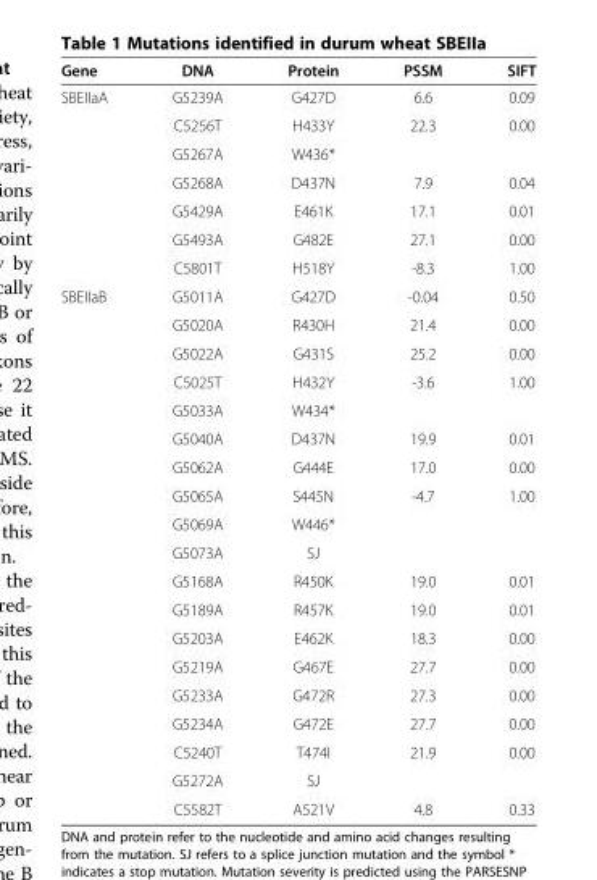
<table><thead><tr><td>Gene</td><td>DNA</td><td>Protein</td><td>PSSM</td><td>SIFT</td></tr></thead><tbody><tr><td rowspan="7">SBEIIaA</td><td>G5239A</td><td>G427D</td><td>6.6</td><td>0.09</td></tr><tr><td>C5256T</td><td>H433Y</td><td>22.3</td><td>0.00</td></tr><tr><td>G5267A</td><td>W436*</td><td></td><td></td></tr><tr><td>G5268A</td><td>D437N</td><td>7.9</td><td>0.04</td></tr><tr><td>G5429A</td><td>E461K</td><td>17.1</td><td>0.01</td></tr><tr><td>G5493A</td><td>G482E</td><td>27.1</td><td>0.00</td></tr><tr><td>C5801T</td><td>H518Y</td><td>-8.3</td><td>1.00</td></tr><tr><td rowspan="19">SBEIIaB</td><td>G5011A</td><td>G427D</td><td>-0.04</td><td>0.50</td></tr><tr><td>G5020A</td><td>R430H</td><td>21.4</td><td>0.00</td></tr><tr><td>G5022A</td><td>G431S</td><td>25.2</td><td>0.00</td></tr><tr><td>C5025T</td><td>H432Y</td><td>-3.6</td><td>1.00</td></tr><tr><td>G5033A</td><td>W434*</td><td></td><td></td></tr><tr><td>G5040A</td><td>D437N</td><td>19.9</td><td>0.01</td></tr><tr><td>G5062A</td><td>G444E</td><td>17.0</td><td>0.00</td></tr><tr><td>G5065A</td><td>S445N</td><td>-4.7</td><td>1.00</td></tr><tr><td>G5069A</td><td>W446*</td><td></td><td></td></tr><tr><td>G5073A</td><td>SJ</td><td></td><td></td></tr><tr><td>G5168A</td><td>R450K</td><td>19.0</td><td>0.01</td></tr><tr><td>G5189A</td><td>R457K</td><td>19.0</td><td>0.01</td></tr><tr><td>G5203A</td><td>E462K</td><td>18.3</td><td>0.00</td></tr><tr><td>G5219A</td><td>G467E</td><td>27.7</td><td>0.00</td></tr><tr><td>G5233A</td><td>G472R</td><td>27.3</td><td>0.00</td></tr><tr><td>G5234A</td><td>G472E</td><td>27.7</td><td>0.00</td></tr><tr><td>C5240T</td><td>T474I</td><td>21.9</td><td>0.00</td></tr><tr><td>G5272A</td><td>SJ</td><td></td><td></td></tr><tr><td>C5582T</td><td>A521V</td><td>4.8</td><td>0.33</td></tr></tbody></table>